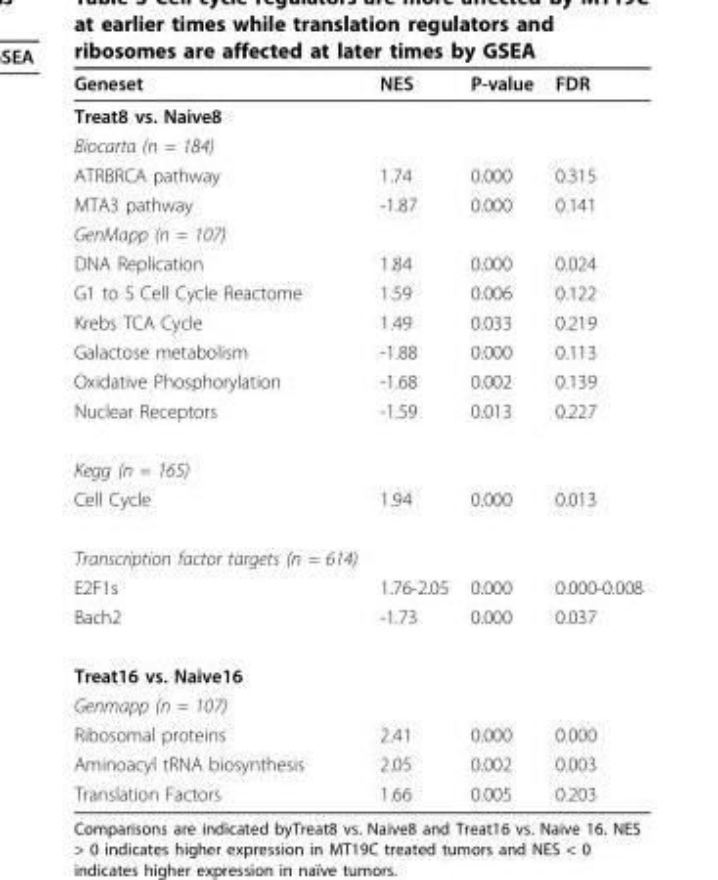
<table><thead><tr><td>Geneset</td><td>NES</td><td>P-value</td><td>FDR</td></tr></thead><tbody><tr><td colspan="4">Treat8 vs. Naive8</td></tr><tr><td colspan="4">Biocarta (n = 184)</td></tr><tr><td>ATRBRCA pathway</td><td>1.74</td><td>0.000</td><td>0.315</td></tr><tr><td>MTA3 pathway</td><td>-1.87</td><td>0.000</td><td>0.141</td></tr><tr><td colspan="4">GenMapp (n = 107)</td></tr><tr><td>DNA Replication</td><td>1.84</td><td>0.000</td><td>0.024</td></tr><tr><td>G1 to S Cell Cycle Reactome</td><td>1.59</td><td>0.006</td><td>0.122</td></tr><tr><td>Krebs TCA Cycle</td><td>1.49</td><td>0.033</td><td>0.219</td></tr><tr><td>Galactose metabolism</td><td>-1.88</td><td>0.000</td><td>0.113</td></tr><tr><td>Oxidative Phosphorylation</td><td>-1.68</td><td>0.002</td><td>0.139</td></tr><tr><td>Nuclear Receptors</td><td>-1.59</td><td>0.013</td><td>0.227</td></tr><tr><td colspan="4">Kegg (n = 165)</td></tr><tr><td>Cell Cycle</td><td>1.94</td><td>0.000</td><td>0.013</td></tr><tr><td colspan="4">Transcription factor targets (n = 614)</td></tr><tr><td>E2F1s</td><td>1.76-2.05</td><td>0.000</td><td>0.000-0.008</td></tr><tr><td>Bach2</td><td>-1.73</td><td>0.000</td><td>0.037</td></tr><tr><td colspan="4">Treat16 vs. Naive16</td></tr><tr><td colspan="4">Genmapp (n = 107)</td></tr><tr><td>Ribosomal proteins</td><td>2.41</td><td>0.000</td><td>0.000</td></tr><tr><td>Aminoacyl tRNA biosynthesis</td><td>2.05</td><td>0.002</td><td>0.003</td></tr><tr><td>Translation Factors</td><td>1.66</td><td>0.005</td><td>0.203</td></tr></tbody></table>